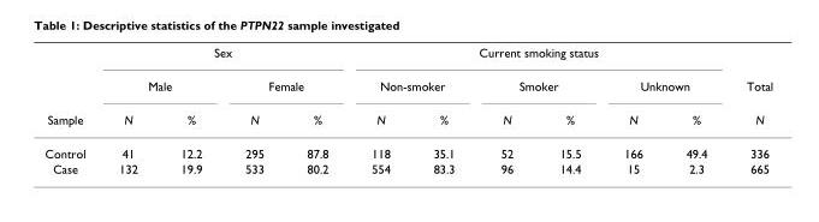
<table><thead><tr><td rowspan="3">Sample</td><td colspan="4">Sex</td><td colspan="6">Current smoking status</td><td rowspan="3">Total N</td></tr><tr><td colspan="2">Male</td><td colspan="2">Female</td><td colspan="2">Non-smoker</td><td colspan="2">Smoker</td><td colspan="2">Unknown</td></tr><tr><td>N</td><td>%</td><td>N</td><td>%</td><td>N</td><td>%</td><td>N</td><td>%</td><td>N</td><td>%</td></tr></thead><tbody><tr><td>Control</td><td>41</td><td>12.2</td><td>295</td><td>87.8</td><td>118</td><td>35.1</td><td>52</td><td>15.5</td><td>166</td><td>49.4</td><td>336</td></tr><tr><td>Case</td><td>132</td><td>19.9</td><td>533</td><td>80.2</td><td>554</td><td>83.3</td><td>96</td><td>14.4</td><td>15</td><td>2.3</td><td>665</td></tr></tbody></table>